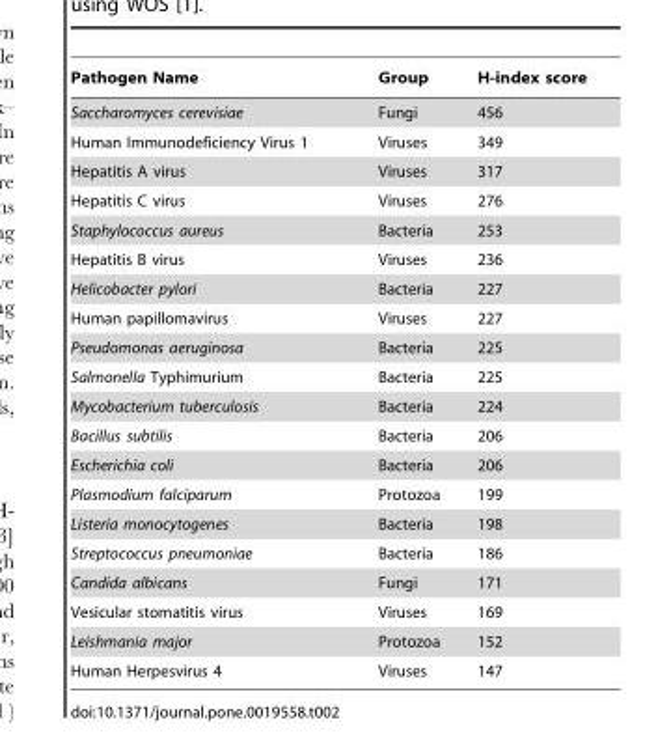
<table><thead><tr><td>Pathogen Name</td><td>Group</td><td>H-index score</td></tr></thead><tbody><tr><td>Saccharomyces cerevisiae</td><td>Fungi</td><td>456</td></tr><tr><td>Human Immunodeficiency Virus 1</td><td>Viruses</td><td>349</td></tr><tr><td>Hepatitis A virus</td><td>Viruses</td><td>317</td></tr><tr><td>Hepatitis C virus</td><td>Viruses</td><td>276</td></tr><tr><td>Staphylococcus aureus</td><td>Bacteria</td><td>253</td></tr><tr><td>Hepatitis B virus</td><td>Viruses</td><td>236</td></tr><tr><td>Helicobacter pylori</td><td>Bacteria</td><td>227</td></tr><tr><td>Human papillomavirus</td><td>Viruses</td><td>227</td></tr><tr><td>Pseudomonas aeruginosa</td><td>Bacteria</td><td>225</td></tr><tr><td>Salmonella Typhimurium</td><td>Bacteria</td><td>225</td></tr><tr><td>Mycobacterium tuberculosis</td><td>Bacteria</td><td>224</td></tr><tr><td>Bacillus subtilis</td><td>Bacteria</td><td>206</td></tr><tr><td>Escherichia coli</td><td>Bacteria</td><td>206</td></tr><tr><td>Plasmodium falciparum</td><td>Protozoa</td><td>199</td></tr><tr><td>Listeria monocytogenes</td><td>Bacteria</td><td>198</td></tr><tr><td>Streptococcus pneumoniae</td><td>Bacteria</td><td>186</td></tr><tr><td>Candida albicans</td><td>Fungi</td><td>171</td></tr><tr><td>Vesicular stomatitis virus</td><td>Viruses</td><td>169</td></tr><tr><td>Leishmania major</td><td>Protozoa</td><td>152</td></tr><tr><td>Human Herpesvirus 4</td><td>Viruses</td><td>147</td></tr></tbody></table>